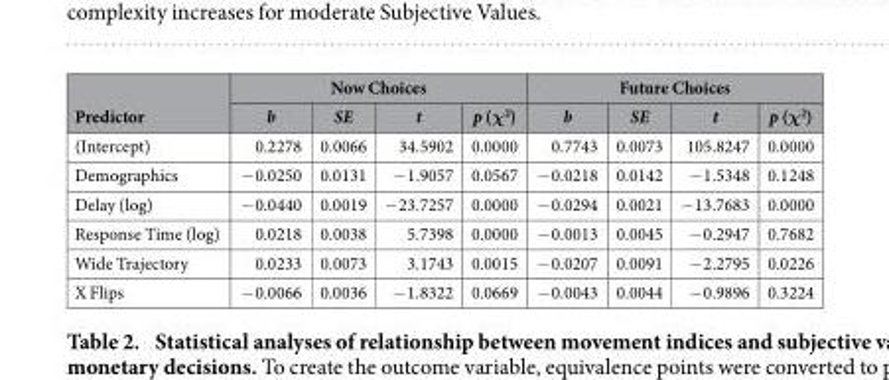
<table><thead><tr><td rowspan="2">Predictor</td><td colspan="4">Now Choices</td><td colspan="4">Future Choices</td></tr><tr><td>b</td><td>SE</td><td>t</td><td>p (χ<sup>2</sup>)</td><td>b</td><td>SE</td><td>t</td><td>p (χ<sup>2</sup>)</td></tr></thead><tbody><tr><td>(Intercept)</td><td>0.2278</td><td>0.0066</td><td>34.5902</td><td>0.0000</td><td>0.7743</td><td>0.0073</td><td>105.8247</td><td>0.0000</td></tr><tr><td>Demographics</td><td>− 0.0250</td><td>0.0131</td><td>− 1.9057</td><td>0.0567</td><td>− 0.0218</td><td>0.0142</td><td>− 1.5348</td><td>0.1248</td></tr><tr><td>Delay (log)</td><td>− 0.0440</td><td>0.0019</td><td>− 23.7257</td><td>0.0000</td><td>− 0.0294</td><td>0.0021</td><td>− 13.7683</td><td>0.0000</td></tr><tr><td>Response Time (log)</td><td>0.0218</td><td>0.0038</td><td>5.7398</td><td>0.0000</td><td>− 0.0013</td><td>0.0045</td><td>− 0.2947</td><td>0.7682</td></tr><tr><td>Wide Trajectory</td><td>0.0233</td><td>0.0073</td><td>3.1743</td><td>0.0015</td><td>− 0.0207</td><td>0.0091</td><td>− 2.2795</td><td>0.0226</td></tr><tr><td>X Flips</td><td>− 0.0066</td><td>0.0036</td><td>− 1.8322</td><td>0.0669</td><td>− 0.0043</td><td>0.0044</td><td>− 0.9896</td><td>0.3224</td></tr></tbody></table>